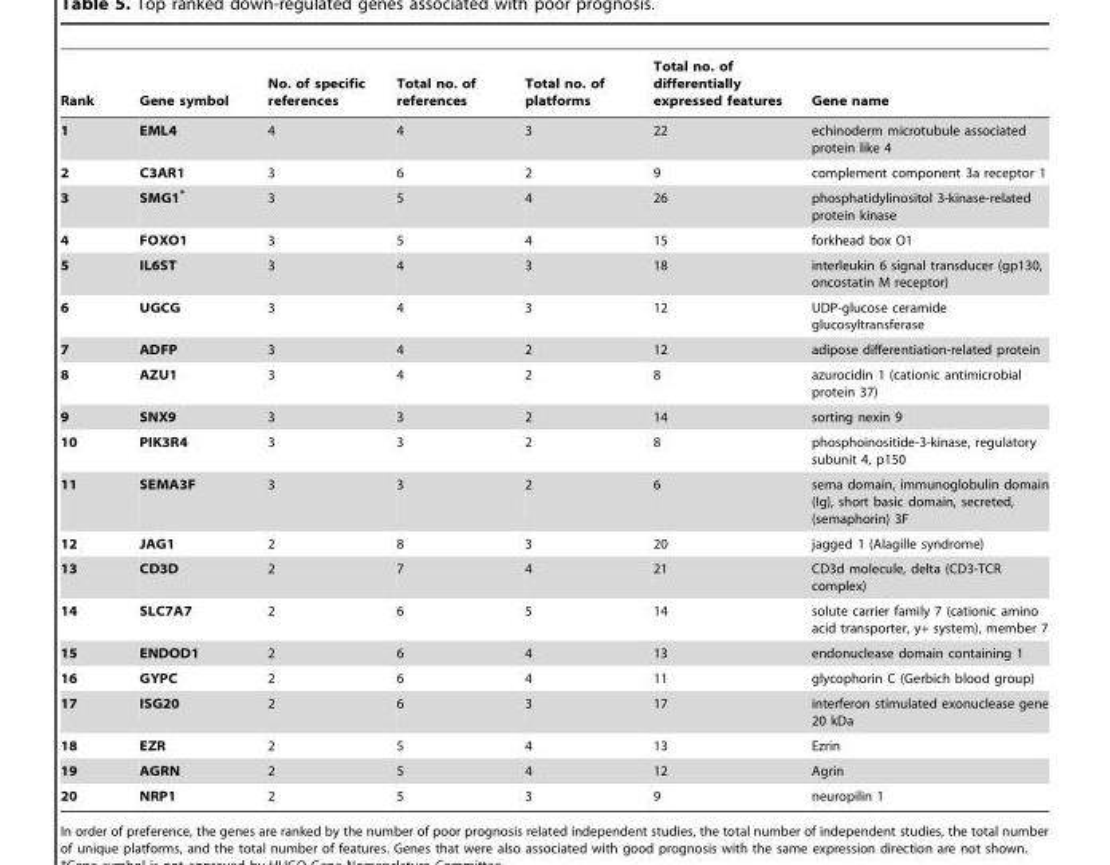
<table><thead><tr><td>Rank</td><td>Gene symbol</td><td>No. of specific references</td><td>Total no. of references</td><td>Total no. of platforms</td><td>Total no. of differentially expressed features</td><td>Gene name</td></tr></thead><tbody><tr><td>1</td><td>EML4</td><td>4</td><td>4</td><td>3</td><td>22</td><td>echinoderm microtubule associated protein like 4</td></tr><tr><td>2</td><td>C3AR1</td><td>3</td><td>6</td><td>2</td><td>9</td><td>complement component 3a receptor 1</td></tr><tr><td>3</td><td>SMG1*</td><td>3</td><td>5</td><td>4</td><td>26</td><td>phosphatidylinositol 3-kinase-related protein kinase</td></tr><tr><td>4</td><td>FOXO1</td><td>3</td><td>5</td><td>4</td><td>15</td><td>forkhead box O1</td></tr><tr><td>5</td><td>IL6ST</td><td>3</td><td>4</td><td>3</td><td>18</td><td>interleukin 6 signal transducer (gp130, oncostatin M receptor)</td></tr><tr><td>6</td><td>UGCG</td><td>3</td><td>4</td><td>3</td><td>12</td><td>UDP-glucose ceramide glucosyltransferase</td></tr><tr><td>7</td><td>ADFP</td><td>3</td><td>4</td><td>2</td><td>12</td><td>adipose differentiation-related protein</td></tr><tr><td>8</td><td>AZU1</td><td>3</td><td>4</td><td>2</td><td>8</td><td>azurocidin 1 (cationic antimicrobial protein 37)</td></tr><tr><td>9</td><td>SNX9</td><td>3</td><td>3</td><td>2</td><td>14</td><td>sorting nexin 9</td></tr><tr><td>10</td><td>PIK3R4</td><td>3</td><td>3</td><td>2</td><td>8</td><td>phosphoinositide-3-kinase, regulatory subunit 4, p150</td></tr><tr><td>11</td><td>SEMA3F</td><td>3</td><td>3</td><td>2</td><td>6</td><td>sema domain, immunoglobulin domain (Ig), short basic domain, secreted, (semaphorin) 3F</td></tr><tr><td>12</td><td>JAG1</td><td>2</td><td>8</td><td>3</td><td>20</td><td>jagged 1 (Alagille syndrome)</td></tr><tr><td>13</td><td>CD3D</td><td>2</td><td>7</td><td>4</td><td>21</td><td>CD3d molecule, delta (CD3-TCR complex)</td></tr><tr><td>14</td><td>SLC7A7</td><td>2</td><td>6</td><td>5</td><td>14</td><td>solute carrier family 7 (cationic amino acid transporter, y+ system), member 7</td></tr><tr><td>15</td><td>ENDOD1</td><td>2</td><td>6</td><td>4</td><td>13</td><td>endonuclease domain containing 1</td></tr><tr><td>16</td><td>GYPC</td><td>2</td><td>6</td><td>4</td><td>11</td><td>glycophorin C (Gerbich blood group)</td></tr><tr><td>17</td><td>ISG20</td><td>2</td><td>6</td><td>3</td><td>17</td><td>interferon stimulated exonuclease gene 20 kDa</td></tr><tr><td>18</td><td>EZR</td><td>2</td><td>5</td><td>4</td><td>13</td><td>Ezrin</td></tr><tr><td>19</td><td>AGRN</td><td>2</td><td>5</td><td>4</td><td>12</td><td>Agrin</td></tr><tr><td>20</td><td>NRP1</td><td>2</td><td>5</td><td>3</td><td>9</td><td>neuropilin 1</td></tr></tbody></table>